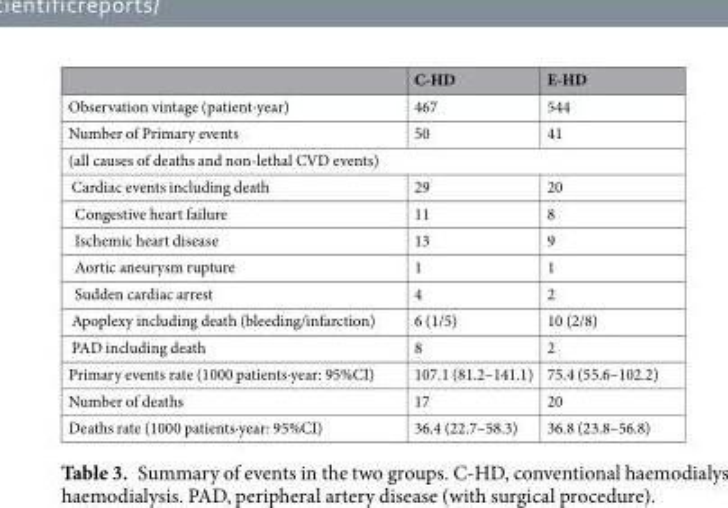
<table><thead><tr><td></td><td>C-HD</td><td>E-HD</td></tr></thead><tbody><tr><td>Observation vintage (patient⋅year)</td><td>467</td><td>544</td></tr><tr><td>Number of Primary events</td><td>50</td><td>41</td></tr><tr><td colspan="3">(all causes of deaths and non-lethal CVD events)</td></tr><tr><td>Cardiac events including death</td><td>29</td><td>20</td></tr><tr><td>Congestive heart failure</td><td>11</td><td>8</td></tr><tr><td>Ischemic heart disease</td><td>13</td><td>9</td></tr><tr><td>Aortic aneurysm rupture</td><td>1</td><td>1</td></tr><tr><td>Sudden cardiac arrest</td><td>4</td><td>2</td></tr><tr><td>Apoplexy including death (bleeding/infarction)</td><td>6 (1/5)</td><td>10 (2/8)</td></tr><tr><td>PAD including death</td><td>8</td><td>2</td></tr><tr><td>Primary events rate (1000 patients·year: 95%CI)</td><td>107.1 (81.2–141.1)</td><td>75.4 (55.6–102.2)</td></tr><tr><td>Number of deaths</td><td>17</td><td>20</td></tr><tr><td>Deaths rate (1000 patients·year: 95%CI)</td><td>36.4 (22.7–58.3)</td><td>36.8 (23.8–56.8)</td></tr></tbody></table>